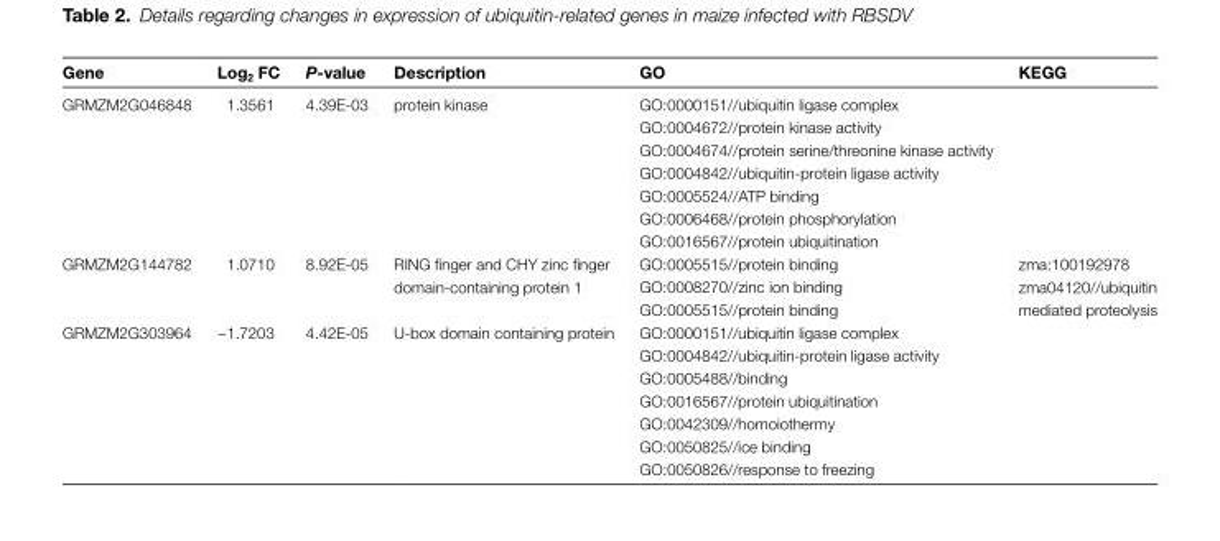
<table><thead><tr><td>Gene</td><td>Log<sub>2</sub> FC</td><td>P-value</td><td>Description</td><td>GO</td><td>KEGG</td></tr></thead><tbody><tr><td rowspan="7">GRMZM2G046848</td><td>1.3561</td><td>4.39E-03</td><td>protein kinase</td><td>GO:0000151//ubiquitin ligase complex</td><td></td></tr><tr><td></td><td></td><td></td><td>GO:0004672//protein kinase activity</td><td></td></tr><tr><td></td><td></td><td></td><td>GO:0004674//protein serine/threonine kinase activity</td><td></td></tr><tr><td></td><td></td><td></td><td>GO:0004842//ubiquitin-protein ligase activity</td><td></td></tr><tr><td></td><td></td><td></td><td>GO:0005524//ATP binding</td><td></td></tr><tr><td></td><td></td><td></td><td>GO:0006468//protein phosphorylation</td><td></td></tr><tr><td></td><td></td><td></td><td>GO:0016567//protein ubiquitination</td><td></td></tr><tr><td rowspan="3">GRMZM2G144782</td><td>1.0710</td><td>8.92E-05</td><td rowspan="3">RING finger and CHY zinc finger domain-containing protein 1</td><td>GO:0005515//protein binding</td><td rowspan="3">zma:100192978 zma04120//ubiquitin mediated proteolysis</td></tr><tr><td></td><td></td><td>GO:0008270//zinc ion binding</td></tr><tr><td></td><td></td><td>GO:0005515//protein binding</td></tr><tr><td rowspan="7">GRMZM2G303964</td><td>−1.7203</td><td>4.42E-05</td><td>U-box domain containing protein</td><td>GO:0000151//ubiquitin ligase complex</td><td></td></tr><tr><td></td><td></td><td></td><td>GO:0004842//ubiquitin-protein ligase activity</td><td></td></tr><tr><td></td><td></td><td></td><td>GO:0005488//binding</td><td></td></tr><tr><td></td><td></td><td></td><td>GO:0016567//protein ubiquitination</td><td></td></tr><tr><td></td><td></td><td></td><td>GO:0042309//homoiothermy</td><td></td></tr><tr><td></td><td></td><td></td><td>GO:0050825//ice binding</td><td></td></tr><tr><td></td><td></td><td></td><td>GO:0050826//response to freezing</td><td></td></tr></tbody></table>